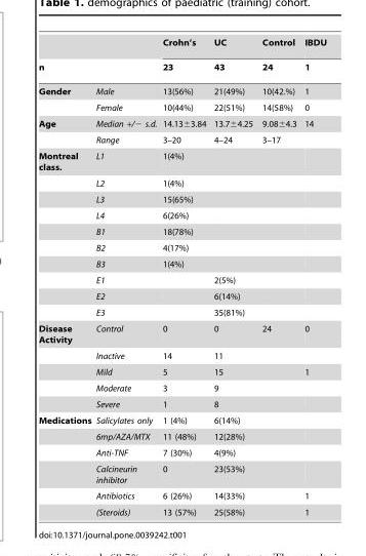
<table><thead><tr><td></td><td></td><td>Crohn’s</td><td>UC</td><td>Control</td><td>IBDU</td></tr></thead><tbody><tr><td>n</td><td></td><td>23</td><td>43</td><td>24</td><td>1</td></tr><tr><td rowspan="2">Gender</td><td>Male</td><td>13(56%)</td><td>21(49%)</td><td>10(42.%)</td><td>1</td></tr><tr><td>Female</td><td>10(44%)</td><td>22(51%)</td><td>14(58%)</td><td>0</td></tr><tr><td rowspan="2">Age</td><td>Median +/− s.d.</td><td>14.13±3.84</td><td>13.7±4.25</td><td>9.08±4.3</td><td>14</td></tr><tr><td>Range</td><td>3–20</td><td>4–24</td><td>3–17</td><td></td></tr><tr><td rowspan="10">Montreal class.</td><td>L1</td><td>1(4%)</td><td></td><td></td><td></td></tr><tr><td>L2</td><td>1(4%)</td><td></td><td></td><td></td></tr><tr><td>L3</td><td>15(65%)</td><td></td><td></td><td></td></tr><tr><td>L4</td><td>6(26%)</td><td></td><td></td><td></td></tr><tr><td>B1</td><td>18(78%)</td><td></td><td></td><td></td></tr><tr><td>B2</td><td>4(17%)</td><td></td><td></td><td></td></tr><tr><td>B3</td><td>1(4%)</td><td></td><td></td><td></td></tr><tr><td>E1</td><td></td><td>2(5%)</td><td></td><td></td></tr><tr><td>E2</td><td></td><td>6(14%)</td><td></td><td></td></tr><tr><td>E3</td><td></td><td>35(81%)</td><td></td><td></td></tr><tr><td rowspan="5">Disease Activity</td><td>Control</td><td>0</td><td>0</td><td>24</td><td>0</td></tr><tr><td>Inactive</td><td>14</td><td>11</td><td></td><td></td></tr><tr><td>Mild</td><td>5</td><td>15</td><td></td><td>1</td></tr><tr><td>Moderate</td><td>3</td><td>9</td><td></td><td></td></tr><tr><td>Severe</td><td>1</td><td>8</td><td></td><td></td></tr><tr><td rowspan="6">Medications</td><td>Salicylates only</td><td>1 (4%)</td><td>6(14%)</td><td></td><td></td></tr><tr><td>6mp/AZA/MTX</td><td>11 (48%)</td><td>12(28%)</td><td></td><td></td></tr><tr><td>Anti-TNF</td><td>7 (30%)</td><td>4(9%)</td><td></td><td></td></tr><tr><td>Calcineurin inhibitor</td><td>0</td><td>23(53%)</td><td></td><td></td></tr><tr><td>Antibiotics</td><td>6 (26%)</td><td>14(33%)</td><td></td><td>1</td></tr><tr><td>(Steroids)</td><td>13 (57%)</td><td>25(58%)</td><td></td><td>1</td></tr></tbody></table>